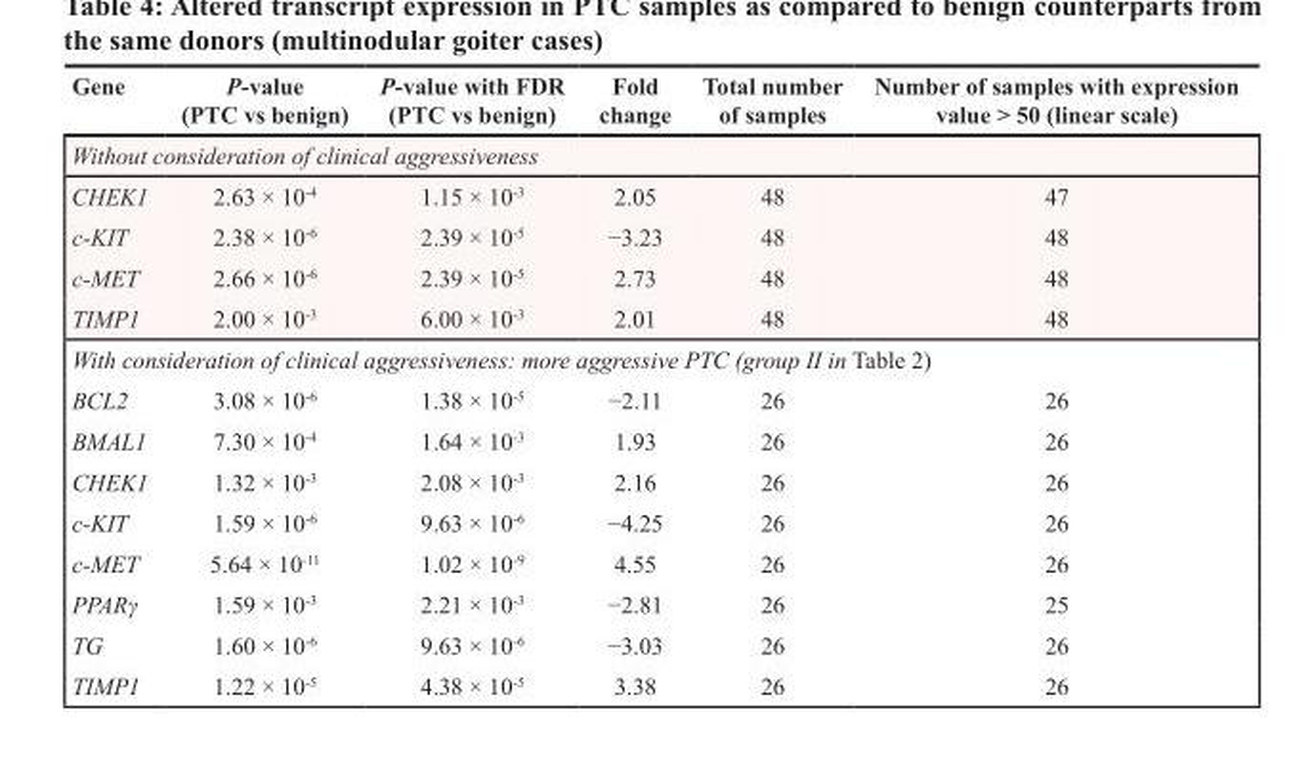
<table><thead><tr><td>Gene</td><td>P-value (PTC vs benign)</td><td>P-value with FDR (PTC vs benign)</td><td>Fold change</td><td>Total number of samples</td><td>Number of samples with expression value &gt; 50 (linear scale)</td></tr></thead><tbody><tr><td colspan="6">Without consideration of clinical aggressiveness</td></tr><tr><td>CHEK1</td><td>2.63 × 10<sup>-4</sup></td><td>1.15 × 10<sup>-3</sup></td><td>2.05</td><td>48</td><td>47</td></tr><tr><td>c-KIT</td><td>2.38 × 10<sup>-6</sup></td><td>2.39 × 10<sup>-5</sup></td><td>−3.23</td><td>48</td><td>48</td></tr><tr><td>c-MET</td><td>2.66 × 10<sup>-6</sup></td><td>2.39 × 10<sup>-5</sup></td><td>2.73</td><td>48</td><td>48</td></tr><tr><td>TIMP1</td><td>2.00 × 10<sup>-3</sup></td><td>6.00 × 10<sup>-3</sup></td><td>2.01</td><td>48</td><td>48</td></tr><tr><td colspan="6">With consideration of clinical aggressiveness: more aggressive PTC (group II in Table 2)</td></tr><tr><td>BCL2</td><td>3.08 × 10<sup>-6</sup></td><td>1.38 × 10<sup>-5</sup></td><td>−2.11</td><td>26</td><td>26</td></tr><tr><td>BMAL1</td><td>7.30 × 10<sup>-4</sup></td><td>1.64 × 10<sup>-3</sup></td><td>1.93</td><td>26</td><td>26</td></tr><tr><td>CHEK1</td><td>1.32 × 10<sup>-3</sup></td><td>2.08 × 10<sup>-3</sup></td><td>2.16</td><td>26</td><td>26</td></tr><tr><td>c-KIT</td><td>1.59 × 10<sup>-6</sup></td><td>9.63 × 10<sup>-6</sup></td><td>−4.25</td><td>26</td><td>26</td></tr><tr><td>c-MET</td><td>5.64 × 10<sup>-11</sup></td><td>1.02 × 10<sup>-9</sup></td><td>4.55</td><td>26</td><td>26</td></tr><tr><td>PPARγ</td><td>1.59 × 10<sup>-3</sup></td><td>2.21 × 10<sup>-3</sup></td><td>−2.81</td><td>26</td><td>25</td></tr><tr><td>TG</td><td>1.60 × 10<sup>-6</sup></td><td>9.63 × 10<sup>-6</sup></td><td>−3.03</td><td>26</td><td>26</td></tr><tr><td>TIMP1</td><td>1.22 × 10<sup>-5</sup></td><td>4.38 × 10<sup>-5</sup></td><td>3.38</td><td>26</td><td>26</td></tr></tbody></table>